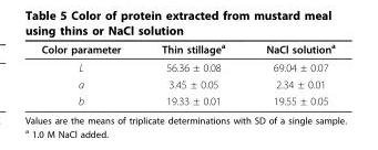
<table><thead><tr><td>Color parameter</td><td>Thin stillage<sup>a</sup></td><td>NaCl solution<sup>a</sup></td></tr></thead><tbody><tr><td>L</td><td>56.36 ± 0.08</td><td>69.04 ± 0.07</td></tr><tr><td>a</td><td>3.45 ± 0.05</td><td>2.34 ± 0.01</td></tr><tr><td>b</td><td>19.33 ± 0.01</td><td>19.55 ± 0.05</td></tr></tbody></table>